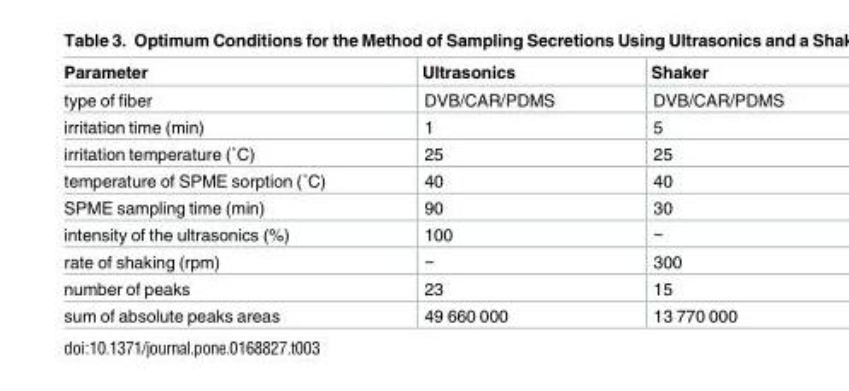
<table><thead><tr><td>Parameter</td><td>Ultrasonics</td><td>Shaker</td></tr></thead><tbody><tr><td>type of fiber</td><td>DVB/CAR/PDMS</td><td>DVB/CAR/PDMS</td></tr><tr><td>irritation time (min)</td><td>1</td><td>5</td></tr><tr><td>irritation temperature (˚C)</td><td>25</td><td>25</td></tr><tr><td>temperature of SPME sorption (˚C)</td><td>40</td><td>40</td></tr><tr><td>SPME sampling time (min)</td><td>90</td><td>30</td></tr><tr><td>intensity of the ultrasonics (%)</td><td>100</td><td>−</td></tr><tr><td>rate of shaking (rpm)</td><td>−</td><td>300</td></tr><tr><td>number of peaks</td><td>23</td><td>15</td></tr><tr><td>sum of absolute peaks areas</td><td>49 660 000</td><td>13 770 000</td></tr></tbody></table>